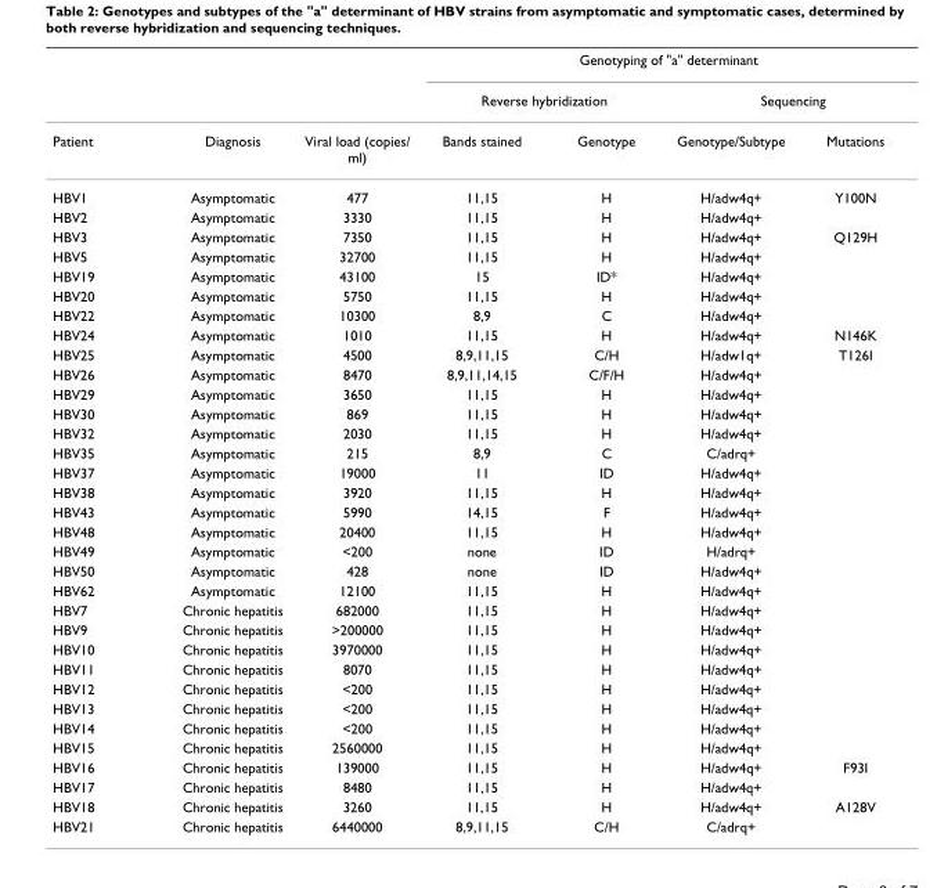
<table><thead><tr><td rowspan="3">Patient</td><td rowspan="3">Diagnosis</td><td rowspan="3">Viral load (copies/ ml)</td><td colspan="4">Genotyping of &quot;a&quot; determinant</td></tr><tr><td colspan="2">Reverse hybridization</td><td colspan="2">Sequencing</td></tr><tr><td>Bands stained</td><td>Genotype</td><td>Genotype/Subtype</td><td>Mutations</td></tr></thead><tbody><tr><td>HBV1</td><td>Asymptomatic</td><td>477</td><td>11,15</td><td>H</td><td>H/adw4q+</td><td>Y100N</td></tr><tr><td>HBV2</td><td>Asymptomatic</td><td>3330</td><td>11,15</td><td>H</td><td>H/adw4q+</td><td></td></tr><tr><td>HBV3</td><td>Asymptomatic</td><td>7350</td><td>11,15</td><td>H</td><td>H/adw4q+</td><td>Q129H</td></tr><tr><td>HBV5</td><td>Asymptomatic</td><td>32700</td><td>11,15</td><td>H</td><td>H/adw4q+</td><td></td></tr><tr><td>HBV19</td><td>Asymptomatic</td><td>43100</td><td>15</td><td>ID*</td><td>H/adw4q+</td><td></td></tr><tr><td>HBV20</td><td>Asymptomatic</td><td>5750</td><td>11,15</td><td>H</td><td>H/adw4q+</td><td></td></tr><tr><td>HBV22</td><td>Asymptomatic</td><td>10300</td><td>8,9</td><td>C</td><td>H/adw4q+</td><td></td></tr><tr><td>HBV24</td><td>Asymptomatic</td><td>1010</td><td>11,15</td><td>H</td><td>H/adw4q+</td><td>N146K</td></tr><tr><td>HBV25</td><td>Asymptomatic</td><td>4500</td><td>8,9,11,15</td><td>C/H</td><td>H/adw1q+</td><td>T126I</td></tr><tr><td>HBV26</td><td>Asymptomatic</td><td>8470</td><td>8,9,11,14,15</td><td>C/F/H</td><td>H/adw4q+</td><td></td></tr><tr><td>HBV29</td><td>Asymptomatic</td><td>3650</td><td>11,15</td><td>H</td><td>H/adw4q+</td><td></td></tr><tr><td>HBV30</td><td>Asymptomatic</td><td>869</td><td>11,15</td><td>H</td><td>H/adw4q+</td><td></td></tr><tr><td>HBV32</td><td>Asymptomatic</td><td>2030</td><td>11,15</td><td>H</td><td>H/adw4q+</td><td></td></tr><tr><td>HBV35</td><td>Asymptomatic</td><td>215</td><td>8,9</td><td>C</td><td>C/adrq+</td><td></td></tr><tr><td>HBV37</td><td>Asymptomatic</td><td>19000</td><td>11</td><td>ID</td><td>H/adw4q+</td><td></td></tr><tr><td>HBV38</td><td>Asymptomatic</td><td>3920</td><td>11,15</td><td>H</td><td>H/adw4q+</td><td></td></tr><tr><td>HBV43</td><td>Asymptomatic</td><td>5990</td><td>14,15</td><td>F</td><td>H/adw4q+</td><td></td></tr><tr><td>HBV48</td><td>Asymptomatic</td><td>20400</td><td>11,15</td><td>H</td><td>H/adw4q+</td><td></td></tr><tr><td>HBV49</td><td>Asymptomatic</td><td>&lt;200</td><td>none</td><td>ID</td><td>H/adrq+</td><td></td></tr><tr><td>HBV50</td><td>Asymptomatic</td><td>428</td><td>none</td><td>ID</td><td>H/adw4q+</td><td></td></tr><tr><td>HBV62</td><td>Asymptomatic</td><td>12100</td><td>11,15</td><td>H</td><td>H/adw4q+</td><td></td></tr><tr><td>HBV7</td><td>Chronic hepatitis</td><td>682000</td><td>11,15</td><td>H</td><td>H/adw4q+</td><td></td></tr><tr><td>HBV9</td><td>Chronic hepatitis</td><td>&gt;200000</td><td>11,15</td><td>H</td><td>H/adw4q+</td><td></td></tr><tr><td>HBV10</td><td>Chronic hepatitis</td><td>3970000</td><td>11,15</td><td>H</td><td>H/adw4q+</td><td></td></tr><tr><td>HBV11</td><td>Chronic hepatitis</td><td>8070</td><td>11,15</td><td>H</td><td>H/adw4q+</td><td></td></tr><tr><td>HBV12</td><td>Chronic hepatitis</td><td>&lt;200</td><td>11,15</td><td>H</td><td>H/adw4q+</td><td></td></tr><tr><td>HBV13</td><td>Chronic hepatitis</td><td>&lt;200</td><td>11,15</td><td>H</td><td>H/adw4q+</td><td></td></tr><tr><td>HBV14</td><td>Chronic hepatitis</td><td>&lt;200</td><td>11,15</td><td>H</td><td>H/adw4q+</td><td></td></tr><tr><td>HBV15</td><td>Chronic hepatitis</td><td>2560000</td><td>11,15</td><td>H</td><td>H/adw4q+</td><td></td></tr><tr><td>HBV16</td><td>Chronic hepatitis</td><td>139000</td><td>11,15</td><td>H</td><td>H/adw4q+</td><td>F93I</td></tr><tr><td>HBV17</td><td>Chronic hepatitis</td><td>8480</td><td>11,15</td><td>H</td><td>H/adw4q+</td><td></td></tr><tr><td>HBV18</td><td>Chronic hepatitis</td><td>3260</td><td>11,15</td><td>H</td><td>H/adw4q+</td><td>A128V</td></tr><tr><td>HBV21</td><td>Chronic hepatitis</td><td>6440000</td><td>8,9,11,15</td><td>C/H</td><td>C/adrq+</td><td></td></tr></tbody></table>